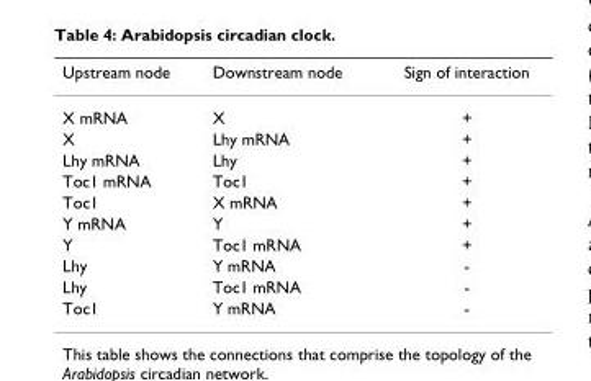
<table><thead><tr><td>Upstream node</td><td>Downstream node</td><td>Sign of interaction</td></tr></thead><tbody><tr><td>X mRNA</td><td>X</td><td>+</td></tr><tr><td>X</td><td>Lhy mRNA</td><td>+</td></tr><tr><td>Lhy mRNA</td><td>Lhy</td><td>+</td></tr><tr><td>Toc1 mRNA</td><td>Toc1</td><td>+</td></tr><tr><td>Toc1</td><td>X mRNA</td><td>+</td></tr><tr><td>Y mRNA</td><td>Y</td><td>+</td></tr><tr><td>Y</td><td>Toc1 mRNA</td><td>+</td></tr><tr><td>Lhy</td><td>Y mRNA</td><td>-</td></tr><tr><td>Lhy</td><td>Toc1 mRNA</td><td>-</td></tr><tr><td>Toc1</td><td>Y mRNA</td><td>-</td></tr></tbody></table>